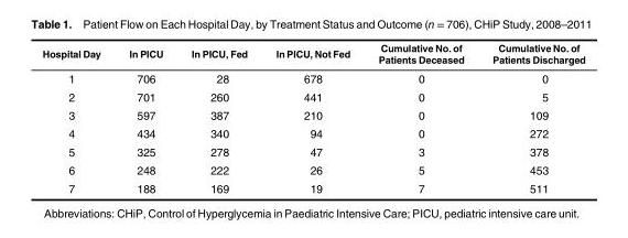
<table><thead><tr><td>Hospital Day</td><td>In PICU</td><td>In PICU, Fed</td><td>In PICU, Not Fed</td><td>Cumulative No. of Patients Deceased</td><td>Cumulative No. of Patients Discharged</td></tr></thead><tbody><tr><td>1</td><td>706</td><td>28</td><td>678</td><td>0</td><td>0</td></tr><tr><td>2</td><td>701</td><td>260</td><td>441</td><td>0</td><td>5</td></tr><tr><td>3</td><td>597</td><td>387</td><td>210</td><td>0</td><td>109</td></tr><tr><td>4</td><td>434</td><td>340</td><td>94</td><td>0</td><td>272</td></tr><tr><td>5</td><td>325</td><td>278</td><td>47</td><td>3</td><td>378</td></tr><tr><td>6</td><td>248</td><td>222</td><td>26</td><td>5</td><td>453</td></tr><tr><td>7</td><td>188</td><td>169</td><td>19</td><td>7</td><td>511</td></tr></tbody></table>